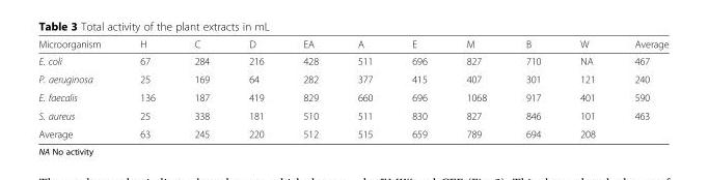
<table><thead><tr><td>Microorganism</td><td>H</td><td>C</td><td>D</td><td>EA</td><td>A</td><td>E</td><td>M</td><td>B</td><td>W</td><td>Average</td></tr></thead><tbody><tr><td>E. coli</td><td>67</td><td>284</td><td>216</td><td>428</td><td>511</td><td>696</td><td>827</td><td>710</td><td>NA</td><td>467</td></tr><tr><td>P. aeruginosa</td><td>25</td><td>169</td><td>64</td><td>282</td><td>377</td><td>415</td><td>407</td><td>301</td><td>121</td><td>240</td></tr><tr><td>E. faecalis</td><td>136</td><td>187</td><td>419</td><td>829</td><td>660</td><td>696</td><td>1068</td><td>917</td><td>401</td><td>590</td></tr><tr><td>S. aureus</td><td>25</td><td>338</td><td>181</td><td>510</td><td>511</td><td>830</td><td>827</td><td>846</td><td>101</td><td>463</td></tr><tr><td>Average</td><td>63</td><td>245</td><td>220</td><td>512</td><td>515</td><td>659</td><td>789</td><td>694</td><td>208</td><td></td></tr></tbody></table>